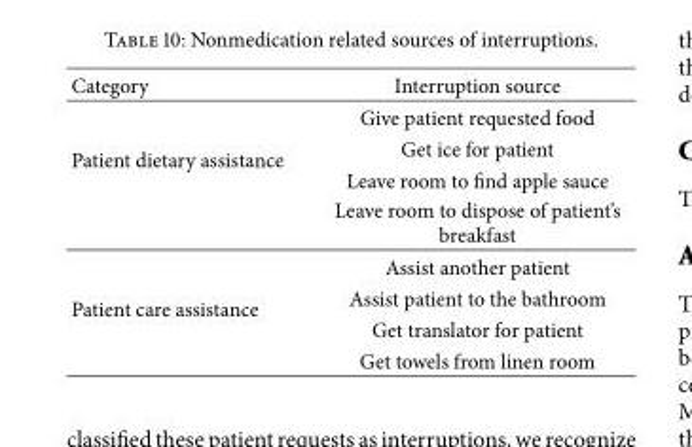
<table><thead><tr><td>Category</td><td>Interruption source</td></tr></thead><tbody><tr><td rowspan="4">Patient dietary assistance</td><td>Give patient requested food</td></tr><tr><td>Get ice for patient</td></tr><tr><td>Leave room to find apple sauce</td></tr><tr><td>Leave room to dispose of patient’s breakfast</td></tr><tr><td rowspan="4">Patient care assistance</td><td>Assist another patient</td></tr><tr><td>Assist patient to the bathroom</td></tr><tr><td>Get translator for patient</td></tr><tr><td>Get towels from linen room</td></tr></tbody></table>